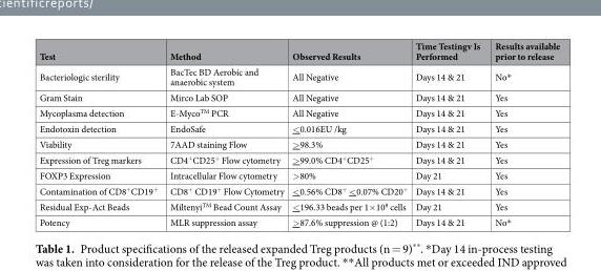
<table><thead><tr><td>Test</td><td>Method</td><td>Observed Results</td><td>Time Testingv Is Performed</td><td>Results available prior to release</td></tr></thead><tbody><tr><td>Bacteriologic sterility</td><td>BacTec BD Aerobic and anaerobic system</td><td>All Negative</td><td>Days 14 &amp; 21</td><td>No*</td></tr><tr><td>Gram Stain</td><td>Mirco Lab SOP</td><td>All Negative</td><td>Days 14 &amp; 21</td><td>Yes</td></tr><tr><td>Mycoplasma detection</td><td>E-Myco<sup>TM</sup> PCR</td><td>All Negative</td><td>Days 14 &amp; 21</td><td>Yes</td></tr><tr><td>Endotoxin detection</td><td>EndoSafe</td><td>&lt;0.016EU /kg</td><td>Days 14 &amp; 21</td><td>Yes</td></tr><tr><td>Viability</td><td>7AAD staining Flow</td><td>&gt;98.3%</td><td>Days 14 &amp; 21</td><td>Yes</td></tr><tr><td>Expression of Treg markers</td><td>CD4<sup>+</sup>CD25<sup>+</sup> Flow cytometry</td><td>&gt;99.0% CD4<sup>+</sup>CD25<sup>+</sup></td><td>Days 14 &amp; 21</td><td>Yes</td></tr><tr><td>FOXP3 Expression</td><td>Intracellular Flow cytometry</td><td>&gt;80%</td><td>Day 21</td><td>Yes</td></tr><tr><td>Contamination of CD8<sup>+</sup>CD19<sup>+</sup></td><td>CD8<sup>+</sup> CD19<sup>+</sup> Flow Cytometry</td><td>&lt;0.56% CD8<sup>+</sup> &lt;0.07% CD20<sup>+</sup></td><td>Days 14 &amp; 21</td><td>Yes</td></tr><tr><td>Residual Exp-Act Beads</td><td>Miltenyi<sup>TM</sup> Bead Count Assay</td><td>&lt;196.33 beads per 1×10<sup>8</sup> cells</td><td>Day 21</td><td>Yes</td></tr><tr><td>Potency</td><td>MLR suppression assay</td><td>&gt;87.6% suppression @ (1:2)</td><td>Days 14 &amp; 21</td><td>No*</td></tr></tbody></table>